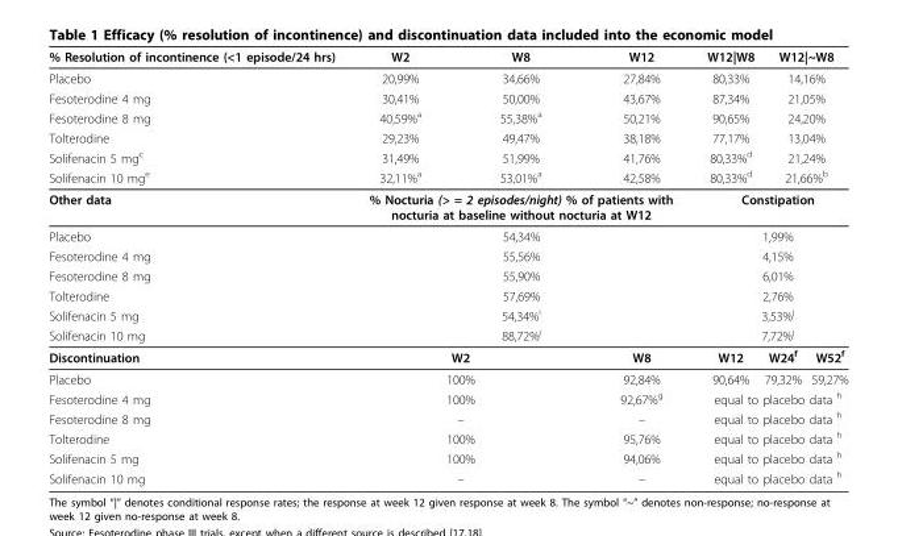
<table><thead><tr><td>% Resolution of incontinence (&lt;1 episode/24 hrs)</td><td>W2</td><td>W8</td><td>W12</td><td>W12|W8</td><td colspan="2">W12|~W8</td></tr></thead><tbody><tr><td>Placebo</td><td>20,99%</td><td>34,66%</td><td>27,84%</td><td>80,33%</td><td colspan="2">14,16%</td></tr><tr><td>Fesoterodine 4 mg</td><td>30,41%</td><td>50,00%</td><td>43,67%</td><td>87,34%</td><td colspan="2">21,05%</td></tr><tr><td>Fesoterodine 8 mg</td><td>40,59%<sup>a</sup></td><td>55,38%<sup>a</sup></td><td>50,21%</td><td>90,65%</td><td colspan="2">24,20%</td></tr><tr><td>Tolterodine</td><td>29,23%</td><td>49,47%</td><td>38,18%</td><td>77,17%</td><td colspan="2">13,04%</td></tr><tr><td>Solifenacin 5 mg<sup>c</sup></td><td>31,49%</td><td>51,99%</td><td>41,76%</td><td>80,33%<sup>d</sup></td><td colspan="2">21,24%</td></tr><tr><td>Solifenacin 10 mg<sup>e</sup></td><td>32,11%<sup>a</sup></td><td>53,01%<sup>a</sup></td><td>42,58%</td><td>80,33%<sup>d</sup></td><td colspan="2">21,66%<sup>b</sup></td></tr><tr><td>Other data</td><td colspan="3">% Nocturia (&gt; = 2 episodes/night) % of patients with nocturia at baseline without nocturia at W12</td><td colspan="3">Constipation</td></tr><tr><td>Placebo</td><td colspan="3">54,34%</td><td colspan="3">1,99%</td></tr><tr><td>Fesoterodine 4 mg</td><td colspan="3">55,56%</td><td colspan="3">4,15%</td></tr><tr><td>Fesoterodine 8 mg</td><td colspan="3">55,90%</td><td colspan="3">6,01%</td></tr><tr><td>Tolterodine</td><td colspan="3">57,69%</td><td colspan="3">2,76%</td></tr><tr><td>Solifenacin 5 mg</td><td colspan="3">54,34%<sup>i</sup></td><td colspan="3">3,53%<sup>j</sup></td></tr><tr><td>Solifenacin 10 mg</td><td colspan="3">88,72%<sup>j</sup></td><td colspan="3">7,72%<sup>j</sup></td></tr><tr><td>Discontinuation</td><td colspan="2">W2</td><td>W8</td><td>W12</td><td>W24<sup>f</sup></td><td>W52<sup>f</sup></td></tr><tr><td>Placebo</td><td colspan="2">100%</td><td>92,84%</td><td>90,64%</td><td>79,32%</td><td>59,27%</td></tr><tr><td>Fesoterodine 4 mg</td><td colspan="2">100%</td><td>92,67%<sup>g</sup></td><td colspan="3">equal to placebo data <sup>h</sup></td></tr><tr><td>Fesoterodine 8 mg</td><td colspan="2">–</td><td>–</td><td colspan="3">equal to placebo data <sup>h</sup></td></tr><tr><td>Tolterodine</td><td colspan="2">100%</td><td>95,76%</td><td colspan="3">equal to placebo data <sup>h</sup></td></tr><tr><td>Solifenacin 5 mg</td><td colspan="2">100%</td><td>94,06%</td><td colspan="3">equal to placebo data <sup>h</sup></td></tr><tr><td>Solifenacin 10 mg</td><td colspan="2">–</td><td>–</td><td colspan="3">equal to placebo data <sup>h</sup></td></tr></tbody></table>